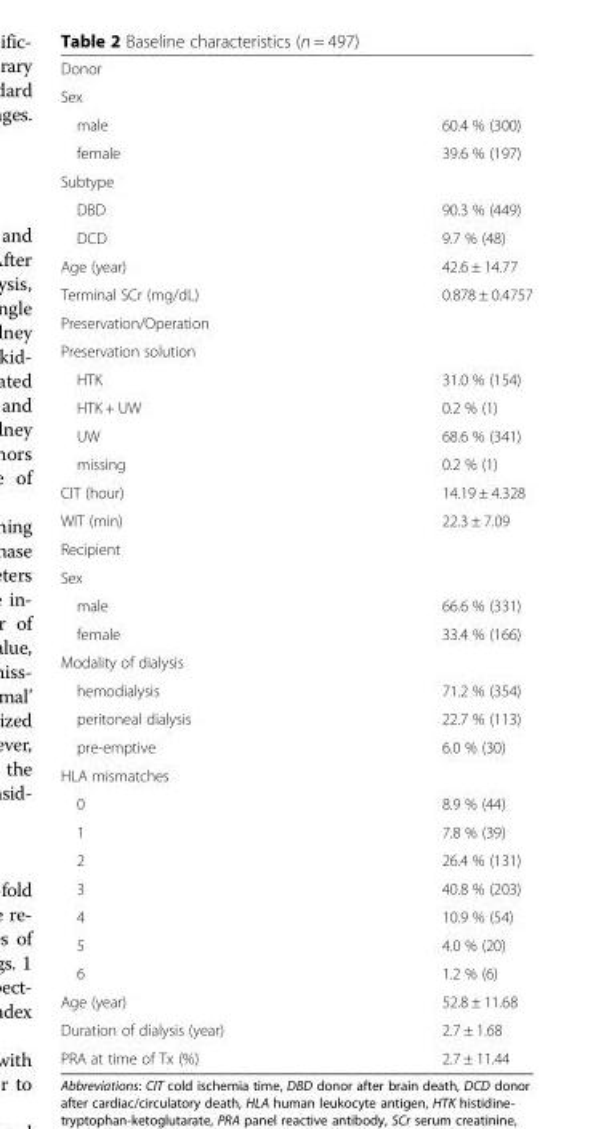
<table><tbody><tr><td colspan="2">Donor</td></tr><tr><td colspan="2">Sex</td></tr><tr><td>male</td><td>60.4 % (300)</td></tr><tr><td>female</td><td>39.6 % (197)</td></tr><tr><td colspan="2">Subtype</td></tr><tr><td>DBD</td><td>90.3 % (449)</td></tr><tr><td>DCD</td><td>9.7 % (48)</td></tr><tr><td>Age (year)</td><td>42.6 ± 14.77</td></tr><tr><td>Terminal SCr (mg/dL)</td><td>0.878 ± 0.4757</td></tr><tr><td colspan="2">Preservation/Operation</td></tr><tr><td colspan="2">Preservation solution</td></tr><tr><td>HTK</td><td>31.0 % (154)</td></tr><tr><td>HTK + UW</td><td>0.2 % (1)</td></tr><tr><td>UW</td><td>68.6 % (341)</td></tr><tr><td>missing</td><td>0.2 % (1)</td></tr><tr><td>CIT (hour)</td><td>14.19 ± 4.328</td></tr><tr><td>WIT (min)</td><td>22.3 ± 7.09</td></tr><tr><td colspan="2">Recipient</td></tr><tr><td colspan="2">Sex</td></tr><tr><td>male</td><td>66.6 % (331)</td></tr><tr><td>female</td><td>33.4 % (166)</td></tr><tr><td colspan="2">Modality of dialysis</td></tr><tr><td>hemodialysis</td><td>71.2 % (354)</td></tr><tr><td>peritoneal dialysis</td><td>22.7 % (113)</td></tr><tr><td>pre-emptive</td><td>6.0 % (30)</td></tr><tr><td colspan="2">HLA mismatches</td></tr><tr><td>0</td><td>8.9 % (44)</td></tr><tr><td>1</td><td>7.8 % (39)</td></tr><tr><td>2</td><td>26.4 % (131)</td></tr><tr><td>3</td><td>40.8 % (203)</td></tr><tr><td>4</td><td>10.9 % (54)</td></tr><tr><td>5</td><td>4.0 % (20)</td></tr><tr><td>6</td><td>1.2 % (6)</td></tr><tr><td>Age (year)</td><td>52.8 ± 11.68</td></tr><tr><td>Duration of dialysis (year)</td><td>2.7 ± 1.68</td></tr><tr><td>PRA at time of Tx (%)</td><td>2.7 ± 11.44</td></tr></tbody></table>